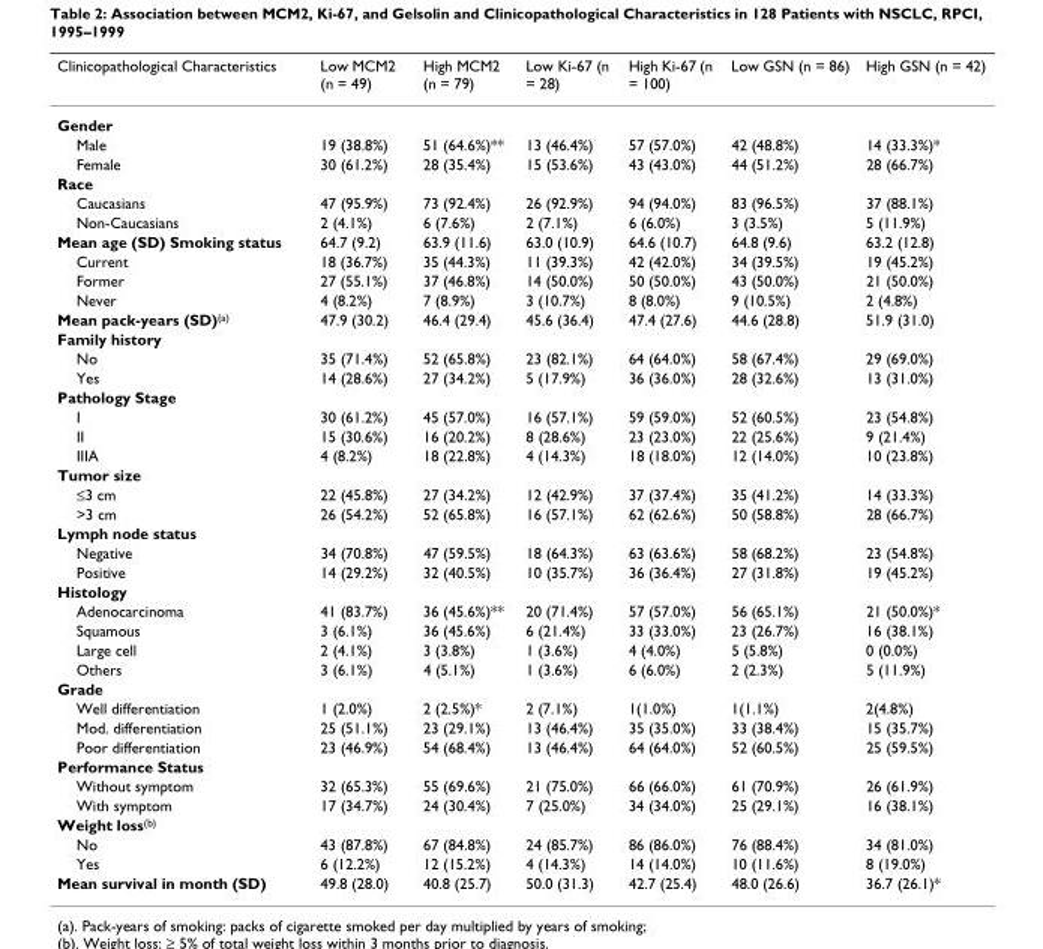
<table><thead><tr><td>Clinicopathological Characteristics</td><td>Low MCM2 (n = 49)</td><td>High MCM2 (n = 79)</td><td>Low Ki-67 (n = 28)</td><td>High Ki-67 (n = 100)</td><td>Low GSN (n = 86)</td><td>High GSN (n = 42)</td></tr></thead><tbody><tr><td colspan="7">Gender</td></tr><tr><td>Male</td><td>19 (38.8%)</td><td>51 (64.6%)**</td><td>13 (46.4%)</td><td>57 (57.0%)</td><td>42 (48.8%)</td><td>14 (33.3%)*</td></tr><tr><td>Female</td><td>30 (61.2%)</td><td>28 (35.4%)</td><td>15 (53.6%)</td><td>43 (43.0%)</td><td>44 (51.2%)</td><td>28 (66.7%)</td></tr><tr><td colspan="7">Race</td></tr><tr><td>Caucasians</td><td>47 (95.9%)</td><td>73 (92.4%)</td><td>26 (92.9%)</td><td>94 (94.0%)</td><td>83 (96.5%)</td><td>37 (88.1%)</td></tr><tr><td>Non-Caucasians</td><td>2 (4.1%)</td><td>6 (7.6%)</td><td>2 (7.1%)</td><td>6 (6.0%)</td><td>3 (3.5%)</td><td>5 (11.9%)</td></tr><tr><td>Mean age (SD) Smoking status</td><td>64.7 (9.2)</td><td>63.9 (11.6)</td><td>63.0 (10.9)</td><td>64.6 (10.7)</td><td>64.8 (9.6)</td><td>63.2 (12.8)</td></tr><tr><td>Current</td><td>18 (36.7%)</td><td>35 (44.3%)</td><td>11 (39.3%)</td><td>42 (42.0%)</td><td>34 (39.5%)</td><td>19 (45.2%)</td></tr><tr><td>Former</td><td>27 (55.1%)</td><td>37 (46.8%)</td><td>14 (50.0%)</td><td>50 (50.0%)</td><td>43 (50.0%)</td><td>21 (50.0%)</td></tr><tr><td>Never</td><td>4 (8.2%)</td><td>7 (8.9%)</td><td>3 (10.7%)</td><td>8 (8.0%)</td><td>9 (10.5%)</td><td>2 (4.8%)</td></tr><tr><td>Mean pack-years (SD)(a)</td><td>47.9 (30.2)</td><td>46.4 (29.4)</td><td>45.6 (36.4)</td><td>47.4 (27.6)</td><td>44.6 (28.8)</td><td>51.9 (31.0)</td></tr><tr><td colspan="7">Family history</td></tr><tr><td>No</td><td>35 (71.4%)</td><td>52 (65.8%)</td><td>23 (82.1%)</td><td>64 (64.0%)</td><td>58 (67.4%)</td><td>29 (69.0%)</td></tr><tr><td>Yes</td><td>14 (28.6%)</td><td>27 (34.2%)</td><td>5 (17.9%)</td><td>36 (36.0%)</td><td>28 (32.6%)</td><td>13 (31.0%)</td></tr><tr><td colspan="7">Pathology Stage</td></tr><tr><td>I</td><td>30 (61.2%)</td><td>45 (57.0%)</td><td>16 (57.1%)</td><td>59 (59.0%)</td><td>52 (60.5%)</td><td>23 (54.8%)</td></tr><tr><td>II</td><td>15 (30.6%)</td><td>16 (20.2%)</td><td>8 (28.6%)</td><td>23 (23.0%)</td><td>22 (25.6%)</td><td>9 (21.4%)</td></tr><tr><td>IIIA</td><td>4 (8.2%)</td><td>18 (22.8%)</td><td>4 (14.3%)</td><td>18 (18.0%)</td><td>12 (14.0%)</td><td>10 (23.8%)</td></tr><tr><td colspan="7">Tumor size</td></tr><tr><td>≤3 cm</td><td>22 (45.8%)</td><td>27 (34.2%)</td><td>12 (42.9%)</td><td>37 (37.4%)</td><td>35 (41.2%)</td><td>14 (33.3%)</td></tr><tr><td>&gt;3 cm</td><td>26 (54.2%)</td><td>52 (65.8%)</td><td>16 (57.1%)</td><td>62 (62.6%)</td><td>50 (58.8%)</td><td>28 (66.7%)</td></tr><tr><td colspan="7">Lymph node status</td></tr><tr><td>Negative</td><td>34 (70.8%)</td><td>47 (59.5%)</td><td>18 (64.3%)</td><td>63 (63.6%)</td><td>58 (68.2%)</td><td>23 (54.8%)</td></tr><tr><td>Positive</td><td>14 (29.2%)</td><td>32 (40.5%)</td><td>10 (35.7%)</td><td>36 (36.4%)</td><td>27 (31.8%)</td><td>19 (45.2%)</td></tr><tr><td colspan="7">Histology</td></tr><tr><td>Adenocarcinoma</td><td>41 (83.7%)</td><td>36 (45.6%)**</td><td>20 (71.4%)</td><td>57 (57.0%)</td><td>56 (65.1%)</td><td>21 (50.0%)*</td></tr><tr><td>Squamous</td><td>3 (6.1%)</td><td>36 (45.6%)</td><td>6 (21.4%)</td><td>33 (33.0%)</td><td>23 (26.7%)</td><td>16 (38.1%)</td></tr><tr><td>Large cell</td><td>2 (4.1%)</td><td>3 (3.8%)</td><td>1 (3.6%)</td><td>4 (4.0%)</td><td>5 (5.8%)</td><td>0 (0.0%)</td></tr><tr><td>Others</td><td>3 (6.1%)</td><td>4 (5.1%)</td><td>1 (3.6%)</td><td>6 (6.0%)</td><td>2 (2.3%)</td><td>5 (11.9%)</td></tr><tr><td colspan="7">Grade</td></tr><tr><td>Well differentiation</td><td>1 (2.0%)</td><td>2 (2.5%)*</td><td>2 (7.1%)</td><td>1(1.0%)</td><td>1(1.1%)</td><td>2(4.8%)</td></tr><tr><td>Mod. differentiation</td><td>25 (51.1%)</td><td>23 (29.1%)</td><td>13 (46.4%)</td><td>35 (35.0%)</td><td>33 (38.4%)</td><td>15 (35.7%)</td></tr><tr><td>Poor differentiation</td><td>23 (46.9%)</td><td>54 (68.4%)</td><td>13 (46.4%)</td><td>64 (64.0%)</td><td>52 (60.5%)</td><td>25 (59.5%)</td></tr><tr><td colspan="7">Performance Status</td></tr><tr><td>Without symptom</td><td>32 (65.3%)</td><td>55 (69.6%)</td><td>21 (75.0%)</td><td>66 (66.0%)</td><td>61 (70.9%)</td><td>26 (61.9%)</td></tr><tr><td>With symptom</td><td>17 (34.7%)</td><td>24 (30.4%)</td><td>7 (25.0%)</td><td>34 (34.0%)</td><td>25 (29.1%)</td><td>16 (38.1%)</td></tr><tr><td colspan="7">Weight loss(b)</td></tr><tr><td>No</td><td>43 (87.8%)</td><td>67 (84.8%)</td><td>24 (85.7%)</td><td>86 (86.0%)</td><td>76 (88.4%)</td><td>34 (81.0%)</td></tr><tr><td>Yes</td><td>6 (12.2%)</td><td>12 (15.2%)</td><td>4 (14.3%)</td><td>14 (14.0%)</td><td>10 (11.6%)</td><td>8 (19.0%)</td></tr><tr><td>Mean survival in month (SD)</td><td>49.8 (28.0)</td><td>40.8 (25.7)</td><td>50.0 (31.3)</td><td>42.7 (25.4)</td><td>48.0 (26.6)</td><td>36.7 (26.1)*</td></tr></tbody></table>